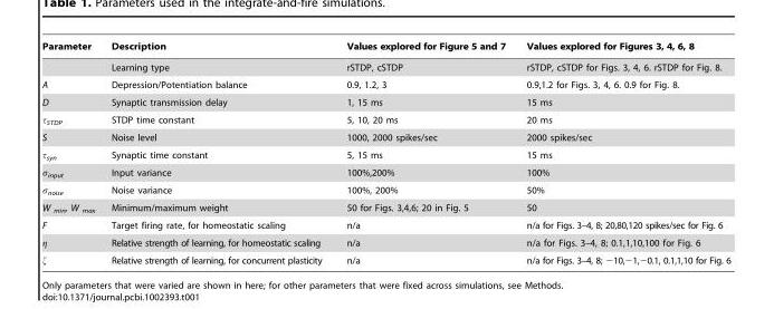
<table><thead><tr><td>Parameter</td><td>Description</td><td>Values explored for Figure 5 and 7</td><td>Values explored for Figures 3, 4, 6, 8</td></tr></thead><tbody><tr><td></td><td>Learning type</td><td>rSTDP, cSTDP</td><td>rSTDP, cSTDP for Figs. 3, 4, 6. rSTDP for Fig. 8.</td></tr><tr><td>A</td><td>Depression/Potentiation balance</td><td>0.9, 1.2, 3</td><td>0.9,1.2 for Figs. 3, 4, 6. 0.9 for Fig. 8.</td></tr><tr><td>D</td><td>Synaptic transmission delay</td><td>1, 15 ms</td><td>15 ms</td></tr><tr><td>τ<sub>STDP</sub></td><td>STDP time constant</td><td>5, 10, 20 ms</td><td>20 ms</td></tr><tr><td>S</td><td>Noise level</td><td>1000, 2000 spikes/sec</td><td>2000 spikes/sec</td></tr><tr><td>τ<sub>syn</sub></td><td>Synaptic time constant</td><td>5, 15 ms</td><td>15 ms</td></tr><tr><td>σ<sub>input</sub></td><td>Input variance</td><td>100%,200%</td><td>100%</td></tr><tr><td>σ<sub>noise</sub></td><td>Noise variance</td><td>100%, 200%</td><td>50%</td></tr><tr><td>W <sub>min</sub>, W <sub>max</sub></td><td>Minimum/maximum weight</td><td>50 for Figs. 3,4,6; 20 in Fig. 5</td><td>50</td></tr><tr><td rowspan="2">F g</td><td>Target firing rate, for homeostatic scaling</td><td>n/a</td><td>n/a for Figs. 3–4, 8; 20,80,120 spikes/sec for Fig. 6</td></tr><tr><td>Relative strength of learning, for homeostatic scaling</td><td>n/a</td><td>n/a for Figs. 3–4, 8; 0.1,1,10,100 for Fig. 6</td></tr><tr><td>ζ</td><td>Relative strength of learning, for concurrent plasticity</td><td>n/a</td><td>n/a for Figs. 3–4, 8; −10,−1,−0.1, 0.1,1,10 for Fig. 6</td></tr></tbody></table>